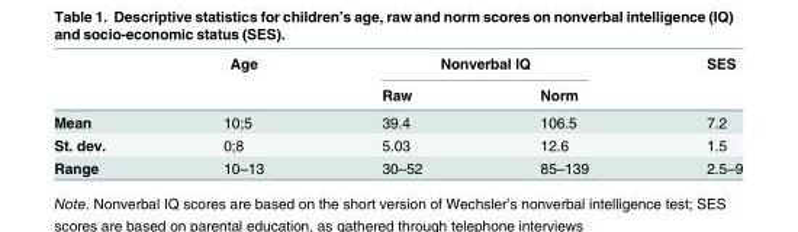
<table><thead><tr><td rowspan="2"></td><td rowspan="2">Age</td><td colspan="2">Nonverbal IQ</td><td rowspan="2">SES</td></tr><tr><td>Raw</td><td>Norm</td></tr></thead><tbody><tr><td>Mean</td><td>10;5</td><td>39.4</td><td>106.5</td><td>7.2</td></tr><tr><td>St. dev.</td><td>0;8</td><td>5.03</td><td>12.6</td><td>1.5</td></tr><tr><td>Range</td><td>10–13</td><td>30–52</td><td>85–139</td><td>2.5–9</td></tr></tbody></table>